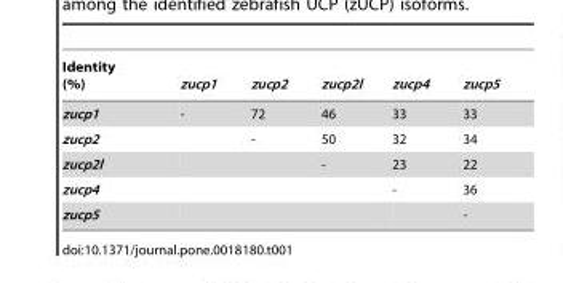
<table><thead><tr><td>Identity (%)</td><td>zucp1</td><td>zucp2</td><td>zucp2l</td><td>zucp4</td><td>zucp5</td></tr></thead><tbody><tr><td>zucp1</td><td>-</td><td>72</td><td>46</td><td>33</td><td>33</td></tr><tr><td>zucp2</td><td></td><td>-</td><td>50</td><td>32</td><td>34</td></tr><tr><td>zucp2l</td><td></td><td></td><td>-</td><td>23</td><td>22</td></tr><tr><td>zucp4</td><td></td><td></td><td></td><td>-</td><td>36</td></tr><tr><td>zucp5</td><td></td><td></td><td></td><td></td><td>-</td></tr></tbody></table>